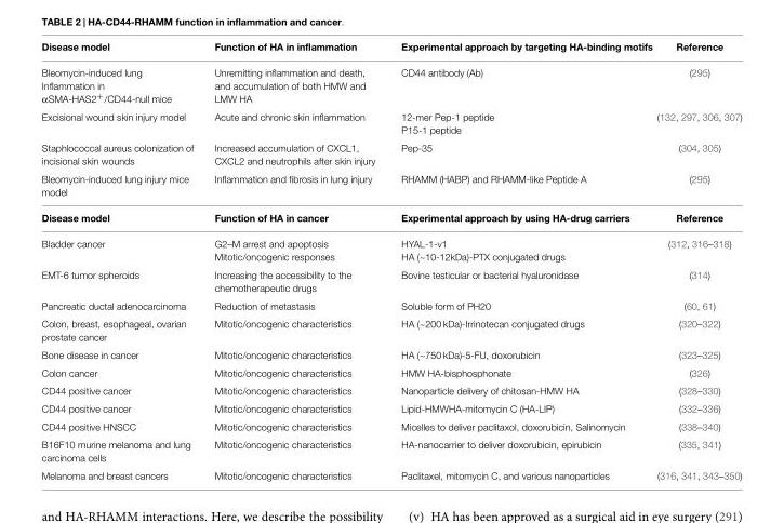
<table><thead><tr><td>Disease model</td><td>Function of HA in inflammation</td><td>Experimental approach by targeting HA-binding motifs</td><td>Reference</td></tr></thead><tbody><tr><td>Bleomycin-induced lung Inflammation in αSMA-HAS2<sup>+</sup>/CD44-null mice</td><td>Unremitting inflammation and death, and accumulation of both HMW and LMW HA</td><td>CD44 antibody (Ab)</td><td>(295)</td></tr><tr><td rowspan="2">Excisional wound skin injury model</td><td>Acute and chronic skin inflammation</td><td>12-mer Pep-1 peptide</td><td>(132, 297, 306, 307)</td></tr><tr><td></td><td>P15-1 peptide</td><td></td></tr><tr><td>Staphlococcal aureus colonization of incisional skin wounds</td><td>Increased accumulation of CXCL1, CXCL2 and neutrophils after skin injury</td><td>Pep-35</td><td>(304, 305)</td></tr><tr><td>Bleomycin-induced lung injury mice model</td><td>Inflammation and fibrosis in lung injury</td><td>RHAMM (HABP) and RHAMM-like Peptide A</td><td>(295)</td></tr><tr><td>Disease model</td><td>Function of HA in cancer</td><td>Experimental approach by using HA-drug carriers</td><td>Reference</td></tr><tr><td rowspan="2">Bladder cancer</td><td>G2–M arrest and apoptosis</td><td>HYAL-1-v1</td><td>(312, 316–318)</td></tr><tr><td>Mitotic/oncogenic responses</td><td>HA (~10-12kDa)-PTX conjugated drugs</td><td></td></tr><tr><td>EMT-6 tumor spheroids</td><td>Increasing the accessibility to the chemotherapeutic drugs</td><td>Bovine testicular or bacterial hyaluronidase</td><td>(314)</td></tr><tr><td>Pancreatic ductal adenocarcinoma</td><td>Reduction of metastasis</td><td>Soluble form of PH20</td><td>(60, 61)</td></tr><tr><td>Colon, breast, esophageal, ovarian prostate cancer</td><td>Mitotic/oncogenic characteristics</td><td>HA (~200 kDa)-Irrinotecan conjugated drugs</td><td>(320–322)</td></tr><tr><td>Bone disease in cancer</td><td>Mitotic/oncogenic characteristics</td><td>HA (~750 kDa)-5-FU, doxorubicin</td><td>(323–325)</td></tr><tr><td>Colon cancer</td><td>Mitotic/oncogenic characteristics</td><td>HMW HA-bisphosphonate</td><td>(326)</td></tr><tr><td>CD44 positive cancer</td><td>Mitotic/oncogenic characteristics</td><td>Nanoparticle delivery of chitosan-HMW HA</td><td>(328–330)</td></tr><tr><td>CD44 positive cancer</td><td>Mitotic/oncogenic characteristics</td><td>Lipid-HMWHA-mitomycin C (HA-LIP)</td><td>(332–336)</td></tr><tr><td>CD44 positive HNSCC</td><td>Mitotic/oncogenic characteristics</td><td>Micelles to deliver paclitaxol, doxorubicin, Salinomycin</td><td>(338–340)</td></tr><tr><td>B16F10 murine melanoma and lung carcinoma cells</td><td>Mitotic/oncogenic characteristics</td><td>HA-nanocarrier to deliver doxorubicin, epirubicin</td><td>(335, 341)</td></tr><tr><td>Melanoma and breast cancers</td><td>Mitotic/oncogenic characteristics</td><td>Paclitaxel, mitomycin C, and various nanoparticles</td><td>(316, 341, 343–350)</td></tr></tbody></table>